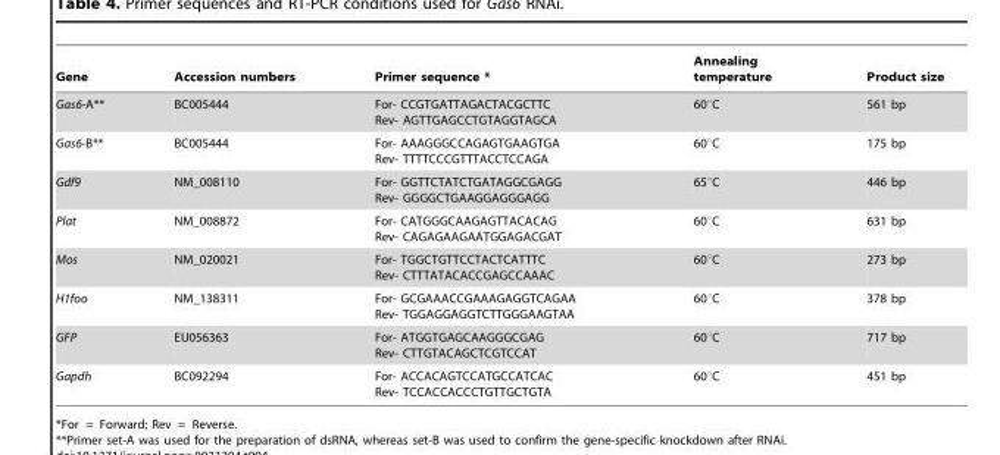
<table><thead><tr><td>Gene</td><td>Accession numbers</td><td>Primer sequence *</td><td>Annealing temperature</td><td>Product size</td></tr></thead><tbody><tr><td>Gas6-A**</td><td>BC005444</td><td>For- CCGTGATTAGACTACGCTTC Rev- AGTTGAGCCTGTAGGTAGCA</td><td>60°C</td><td>561 bp</td></tr><tr><td>Gas6-B**</td><td>BC005444</td><td>For- AAAGGGCCAGAGTGAAGTGA Rev- TTTTCCCGTTTACCTCCAGA</td><td>60°C</td><td>175 bp</td></tr><tr><td>Gdf9</td><td>NM_008110</td><td>For- GGTTCTATCTGATAGGCGAGG Rev- GGGGCTGAAGGAGGGAGG</td><td>65°C</td><td>446 bp</td></tr><tr><td>Plat</td><td>NM_008872</td><td>For- CATGGGCAAGAGTTACACAG Rev- CAGAGAAGAATGGAGACGAT</td><td>60°C</td><td>631 bp</td></tr><tr><td>Mos</td><td>NM_020021</td><td>For- TGGCTGTTCCTACTCATTTC Rev- CTTTATACACCGAGCCAAAC</td><td>60°C</td><td>273 bp</td></tr><tr><td>H1foo</td><td>NM_138311</td><td>For- GCGAAACCGAAAGAGGTCAGAA Rev- TGGAGGAGGTCTTGGGAAGTAA</td><td>60°C</td><td>378 bp</td></tr><tr><td>GFP</td><td>EU056363</td><td>For- ATGGTGAGCAAGGGCGAG Rev- CTTGTACAGCTCGTCCAT</td><td>60°C</td><td>717 bp</td></tr><tr><td>Gapdh</td><td>BC092294</td><td>For- ACCACAGTCCATGCCATCAC Rev- TCCACCACCCTGTTGCTGTA</td><td>60°C</td><td>451 bp</td></tr></tbody></table>